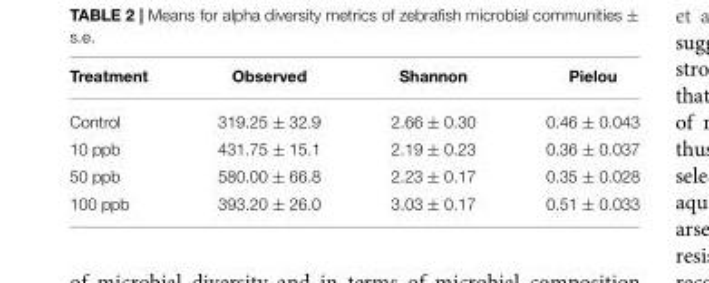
<table><thead><tr><td>Treatment</td><td>Observed</td><td>Shannon</td><td>Pielou</td></tr></thead><tbody><tr><td>Control</td><td>319.25 ± 32.9</td><td>2.66 ± 0.30</td><td>0.46 ± 0.043</td></tr><tr><td>10 ppb</td><td>431.75 ± 15.1</td><td>2.19 ± 0.23</td><td>0.36 ± 0.037</td></tr><tr><td>50 ppb</td><td>580.00 ± 66.8</td><td>2.23 ± 0.17</td><td>0.35 ± 0.028</td></tr><tr><td>100 ppb</td><td>393.20 ± 26.0</td><td>3.03 ± 0.17</td><td>0.51 ± 0.033</td></tr></tbody></table>